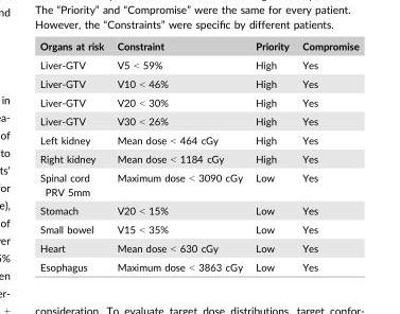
<table><thead><tr><td>Organs at risk</td><td>Constraint</td><td>Priority</td><td>Compromise</td></tr></thead><tbody><tr><td>Liver-GTV</td><td>V5 &lt; 59%</td><td>High</td><td>Yes</td></tr><tr><td>Liver-GTV</td><td>V10 &lt; 46%</td><td>High</td><td>Yes</td></tr><tr><td>Liver-GTV</td><td>V20 &lt; 30%</td><td>High</td><td>Yes</td></tr><tr><td>Liver-GTV</td><td>V30 &lt; 26%</td><td>High</td><td>Yes</td></tr><tr><td>Left kidney</td><td>Mean dose &lt; 464 cGy</td><td>High</td><td>Yes</td></tr><tr><td>Right kidney</td><td>Mean dose &lt; 1184 cGy</td><td>High</td><td>Yes</td></tr><tr><td>Spinal cord PRV 5mm</td><td>Maximum dose &lt; 3090 cGy</td><td>Low</td><td>Yes</td></tr><tr><td>Stomach</td><td>V20 &lt; 15%</td><td>Low</td><td>Yes</td></tr><tr><td>Small bowel</td><td>V15 &lt; 35%</td><td>Low</td><td>Yes</td></tr><tr><td>Heart</td><td>Mean dose &lt; 630 cGy</td><td>Low</td><td>Yes</td></tr><tr><td>Esophagus</td><td>Maximum dose &lt; 3863 cGy</td><td>Low</td><td>Yes</td></tr></tbody></table>